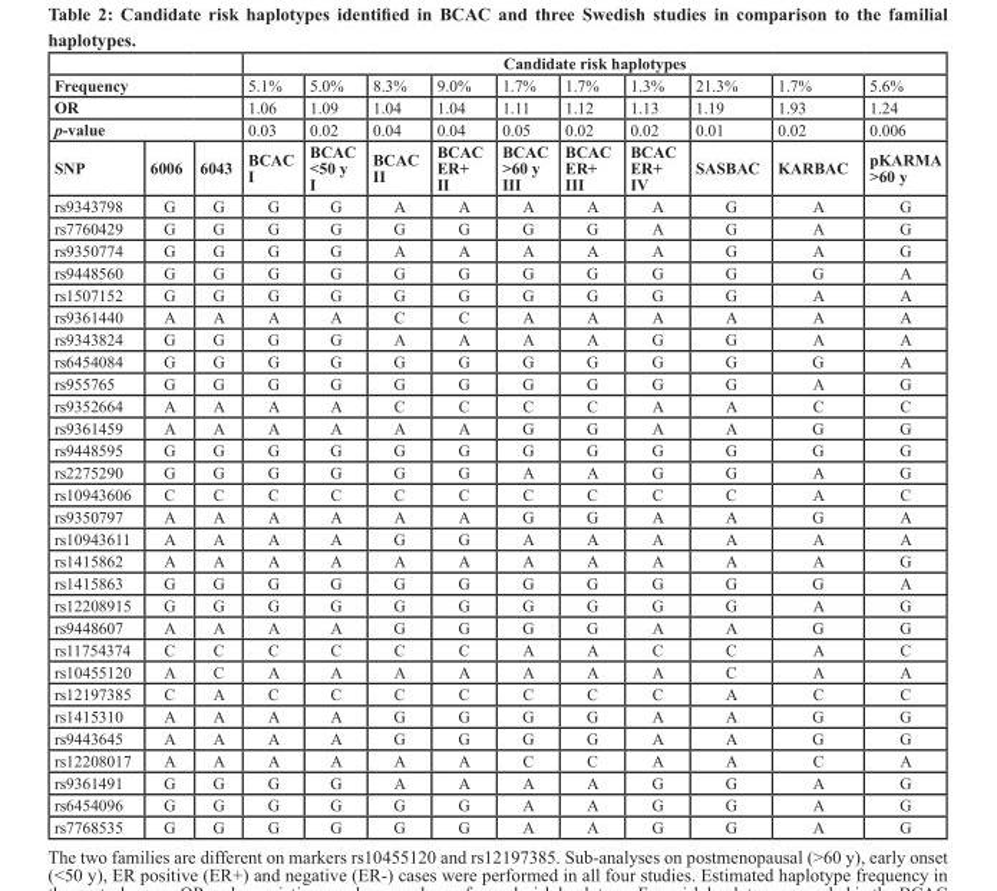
<table><thead><tr><td></td><td></td><td></td><td colspan="10">Candidate risk haplotypes</td></tr><tr><td rowspan="3" colspan="3">Frequency OR p-value</td><td rowspan="4">5.1% 1.06 0.03 BCAC I</td><td rowspan="4">5.0% 1.09 0.02 BCAC &lt;50 y I</td><td rowspan="4">8.3% 1.04 0.04 BCAC II</td><td rowspan="4">9.0% 1.04 0.04 BCAC ER+ II</td><td rowspan="4">1.7% 1.11 0.05 BCAC &gt;60 y III</td><td rowspan="4">1.7% 1.12 0.02 BCAC ER+ III</td><td rowspan="4">1.3% 1.13 0.02 BCAC ER+ IV</td><td rowspan="4">21.3% 1.19 0.01 SASBAC</td><td rowspan="4">1.7% 1.93 0.02 KARBAC</td><td rowspan="4">5.6% 1.24 0.006 pKARMA &gt;60 y</td></tr><tr></tr><tr></tr><tr><td>SNP</td><td>6006</td><td>6043</td></tr></thead><tbody><tr><td>rs9343798</td><td>G</td><td>G</td><td>G</td><td>G</td><td>A</td><td>A</td><td>A</td><td>A</td><td>A</td><td>G</td><td>A</td><td>G</td></tr><tr><td>rs7760429</td><td>G</td><td>G</td><td>G</td><td>G</td><td>G</td><td>G</td><td>G</td><td>G</td><td>A</td><td>G</td><td>A</td><td>G</td></tr><tr><td>rs9350774</td><td>G</td><td>G</td><td>G</td><td>G</td><td>A</td><td>A</td><td>A</td><td>A</td><td>A</td><td>G</td><td>A</td><td>G</td></tr><tr><td>rs9448560</td><td>G</td><td>G</td><td>G</td><td>G</td><td>G</td><td>G</td><td>G</td><td>G</td><td>G</td><td>G</td><td>G</td><td>A</td></tr><tr><td>rs1507152</td><td>G</td><td>G</td><td>G</td><td>G</td><td>G</td><td>G</td><td>G</td><td>G</td><td>G</td><td>G</td><td>A</td><td>A</td></tr><tr><td>rs9361440</td><td>A</td><td>A</td><td>A</td><td>A</td><td>C</td><td>C</td><td>A</td><td>A</td><td>A</td><td>A</td><td>A</td><td>A</td></tr><tr><td>rs9343824</td><td>G</td><td>G</td><td>G</td><td>G</td><td>A</td><td>A</td><td>A</td><td>A</td><td>G</td><td>G</td><td>A</td><td>A</td></tr><tr><td>rs6454084</td><td>G</td><td>G</td><td>G</td><td>G</td><td>G</td><td>G</td><td>G</td><td>G</td><td>G</td><td>G</td><td>G</td><td>A</td></tr><tr><td>rs955765</td><td>G</td><td>G</td><td>G</td><td>G</td><td>G</td><td>G</td><td>G</td><td>G</td><td>G</td><td>G</td><td>A</td><td>G</td></tr><tr><td>rs9352664</td><td>A</td><td>A</td><td>A</td><td>A</td><td>C</td><td>C</td><td>C</td><td>C</td><td>A</td><td>A</td><td>C</td><td>C</td></tr><tr><td>rs9361459</td><td>A</td><td>A</td><td>A</td><td>A</td><td>A</td><td>A</td><td>G</td><td>G</td><td>A</td><td>A</td><td>G</td><td>G</td></tr><tr><td>rs9448595</td><td>G</td><td>G</td><td>G</td><td>G</td><td>G</td><td>G</td><td>G</td><td>G</td><td>G</td><td>G</td><td>G</td><td>G</td></tr><tr><td>rs2275290</td><td>G</td><td>G</td><td>G</td><td>G</td><td>G</td><td>G</td><td>A</td><td>A</td><td>G</td><td>G</td><td>A</td><td>G</td></tr><tr><td>rs10943606</td><td>C</td><td>C</td><td>C</td><td>C</td><td>C</td><td>C</td><td>C</td><td>C</td><td>C</td><td>C</td><td>A</td><td>C</td></tr><tr><td>rs9350797</td><td>A</td><td>A</td><td>A</td><td>A</td><td>A</td><td>A</td><td>G</td><td>G</td><td>A</td><td>A</td><td>G</td><td>A</td></tr><tr><td>rs10943611</td><td>A</td><td>A</td><td>A</td><td>A</td><td>G</td><td>G</td><td>A</td><td>A</td><td>A</td><td>A</td><td>A</td><td>A</td></tr><tr><td>rs1415862</td><td>A</td><td>A</td><td>A</td><td>A</td><td>A</td><td>A</td><td>A</td><td>A</td><td>A</td><td>A</td><td>A</td><td>G</td></tr><tr><td>rs1415863</td><td>G</td><td>G</td><td>G</td><td>G</td><td>G</td><td>G</td><td>G</td><td>G</td><td>G</td><td>G</td><td>G</td><td>A</td></tr><tr><td>rs12208915</td><td>G</td><td>G</td><td>G</td><td>G</td><td>G</td><td>G</td><td>G</td><td>G</td><td>G</td><td>G</td><td>A</td><td>G</td></tr><tr><td>rs9448607</td><td>A</td><td>A</td><td>A</td><td>A</td><td>G</td><td>G</td><td>G</td><td>G</td><td>A</td><td>A</td><td>G</td><td>G</td></tr><tr><td>rs11754374</td><td>C</td><td>C</td><td>C</td><td>C</td><td>C</td><td>C</td><td>A</td><td>A</td><td>C</td><td>C</td><td>A</td><td>C</td></tr><tr><td>rs10455120</td><td>A</td><td>C</td><td>A</td><td>A</td><td>A</td><td>A</td><td>A</td><td>A</td><td>A</td><td>C</td><td>A</td><td>A</td></tr><tr><td>rs12197385</td><td>C</td><td>A</td><td>C</td><td>C</td><td>C</td><td>C</td><td>C</td><td>C</td><td>C</td><td>A</td><td>C</td><td>C</td></tr><tr><td>rs1415310</td><td>A</td><td>A</td><td>A</td><td>A</td><td>G</td><td>G</td><td>G</td><td>G</td><td>A</td><td>A</td><td>G</td><td>G</td></tr><tr><td>rs9443645</td><td>A</td><td>A</td><td>A</td><td>A</td><td>G</td><td>G</td><td>G</td><td>G</td><td>A</td><td>A</td><td>G</td><td>G</td></tr><tr><td>rs12208017</td><td>A</td><td>A</td><td>A</td><td>A</td><td>A</td><td>A</td><td>C</td><td>C</td><td>A</td><td>A</td><td>C</td><td>A</td></tr><tr><td>rs9361491</td><td>G</td><td>G</td><td>G</td><td>G</td><td>A</td><td>A</td><td>A</td><td>A</td><td>G</td><td>G</td><td>A</td><td>G</td></tr><tr><td>rs6454096</td><td>G</td><td>G</td><td>G</td><td>G</td><td>G</td><td>G</td><td>A</td><td>A</td><td>G</td><td>G</td><td>A</td><td>G</td></tr><tr><td>rs7768535</td><td>G</td><td>G</td><td>G</td><td>G</td><td>G</td><td>G</td><td>A</td><td>A</td><td>G</td><td>G</td><td>A</td><td>G</td></tr></tbody></table>